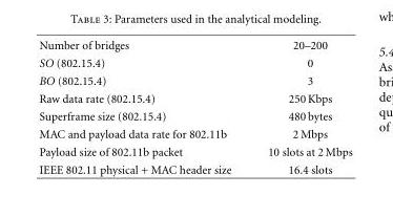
<table><tbody><tr><td>Number of bridges</td><td>20–200</td></tr><tr><td>SO (802.15.4)</td><td>0</td></tr><tr><td>BO (802.15.4)</td><td>3</td></tr><tr><td>Raw data rate (802.15.4)</td><td>250 Kbps</td></tr><tr><td>Superframe size (802.15.4)</td><td>480 bytes</td></tr><tr><td>MAC and payload data rate for 802.11b</td><td>2 Mbps</td></tr><tr><td>Payload size of 802.11b packet</td><td>10 slots at 2 Mbps</td></tr><tr><td>IEEE 802.11 physical + MAC header size</td><td>16.4 slots</td></tr></tbody></table>